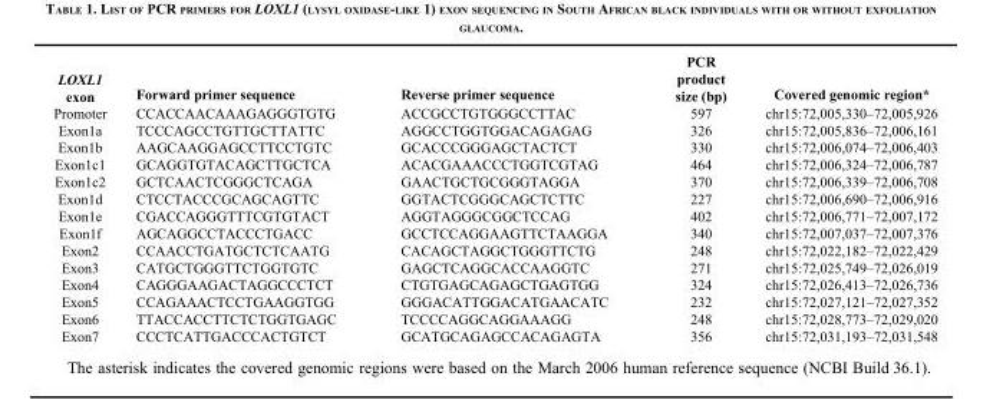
<table><thead><tr><td>LOXL1 exon</td><td>Forward primer sequence</td><td>Reverse primer sequence</td><td>PCR product size (bp)</td><td>Covered genomic region*</td></tr></thead><tbody><tr><td>Promoter</td><td>CCACCAACAAAGAGGGTGTG</td><td>ACCGCCTGTGGGCCTTAC</td><td>597</td><td>chr15:72,005,330–72,005,926</td></tr><tr><td>Exon1a</td><td>TCCCAGCCTGTTGCTTATTC</td><td>AGGCCTGGTGGACAGAGAG</td><td>326</td><td>chr15:72,005,836–72,006,161</td></tr><tr><td>Exon1b</td><td>AAGCAAGGAGCCTTCCTGTC</td><td>GCACCCGGGAGCTACTCT</td><td>330</td><td>chr15:72,006,074–72,006,403</td></tr><tr><td>Exon1c1</td><td>GCAGGTGTACAGCTTGCTCA</td><td>ACACGAAACCCTGGTCGTAG</td><td>464</td><td>chr15:72,006,324–72,006,787</td></tr><tr><td>Exon1c2</td><td>GCTCAACTCGGGCTCAGA</td><td>GAACTGCTGCGGGTAGGA</td><td>370</td><td>chr15:72,006,339–72,006,708</td></tr><tr><td>Exon1d</td><td>CTCCTACCCGCAGCAGTTC</td><td>GGTACTCGGGCAGCTCTTC</td><td>227</td><td>chr15:72,006,690–72,006,916</td></tr><tr><td>Exon1e</td><td>CGACCAGGGTTTCGTGTACT</td><td>AGGTAGGGCGGCTCCAG</td><td>402</td><td>chr15:72,006,771–72,007,172</td></tr><tr><td>Exon1f</td><td>AGCAGGCCTACCCTGACC</td><td>GCCTCCAGGAAGTTCTAAGGA</td><td>340</td><td>chr15:72,007,037–72,007,376</td></tr><tr><td>Exon2</td><td>CCAACCTGATGCTCTCAATG</td><td>CACAGCTAGGCTGGGTTCTG</td><td>248</td><td>chr15:72,022,182–72,022,429</td></tr><tr><td>Exon3</td><td>CATGCTGGGTTCTGGTGTC</td><td>GAGCTCAGGCACCAAGGTC</td><td>271</td><td>chr15:72,025,749–72,026,019</td></tr><tr><td>Exon4</td><td>CAGGGAAGACTAGGCCCTCT</td><td>CTGTGAGCAGAGCTGAGTGG</td><td>324</td><td>chr15:72,026,413–72,026,736</td></tr><tr><td>Exon5</td><td>CCAGAAACTCCTGAAGGTGG</td><td>GGGACATTGGACATGAACATC</td><td>232</td><td>chr15:72,027,121–72,027,352</td></tr><tr><td>Exon6</td><td>TTACCACCTTCTCTGGTGAGC</td><td>TCCCCAGGCAGGAAAGG</td><td>248</td><td>chr15:72,028,773–72,029,020</td></tr><tr><td>Exon7</td><td>CCCTCATTGACCCACTGTCT</td><td>GCATGCAGAGCCACAGAGTA</td><td>356</td><td>chr15:72,031,193–72,031,548</td></tr></tbody></table>